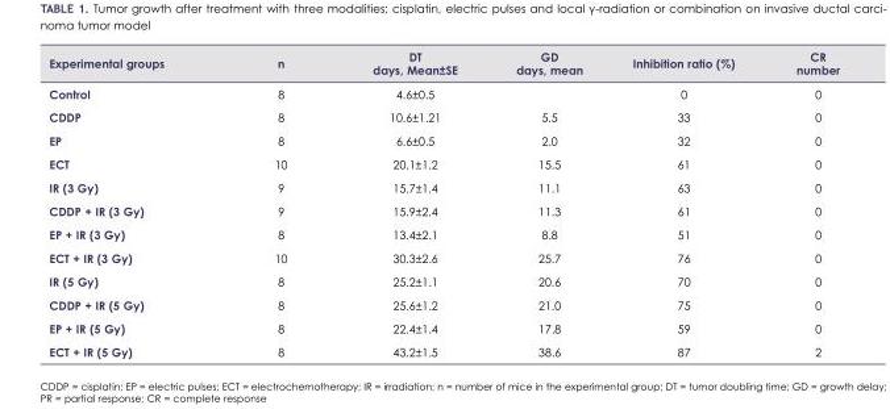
<table><thead><tr><td>Experimental groups</td><td>n</td><td>DT days, Mean±SE</td><td>GD days, mean</td><td>Inhibition ratio (%)</td><td>CR number</td></tr></thead><tbody><tr><td>Control</td><td>8</td><td>4.6±0.5</td><td></td><td>0</td><td>0</td></tr><tr><td>CDDP</td><td>8</td><td>10.6±1.21</td><td>5.5</td><td>33</td><td>0</td></tr><tr><td>EP</td><td>8</td><td>6.6±0.5</td><td>2.0</td><td>32</td><td>0</td></tr><tr><td>ECT</td><td>10</td><td>20.1±1.2</td><td>15.5</td><td>61</td><td>0</td></tr><tr><td>IR (3 Gy)</td><td>9</td><td>15.7±1.4</td><td>11.1</td><td>63</td><td>0</td></tr><tr><td>CDDP + IR (3 Gy)</td><td>9</td><td>15.9±2.4</td><td>11.3</td><td>61</td><td>0</td></tr><tr><td>EP + IR (3 Gy)</td><td>8</td><td>13.4±2.1</td><td>8.8</td><td>51</td><td>0</td></tr><tr><td>ECT + IR (3 Gy)</td><td>10</td><td>30.3±2.6</td><td>25.7</td><td>76</td><td>0</td></tr><tr><td>IR (5 Gy)</td><td>8</td><td>25.2±1.1</td><td>20.6</td><td>70</td><td>0</td></tr><tr><td>CDDP + IR (5 Gy)</td><td>8</td><td>25.6±1.2</td><td>21.0</td><td>75</td><td>0</td></tr><tr><td>EP + IR (5 Gy)</td><td>8</td><td>22.4±1.4</td><td>17.8</td><td>59</td><td>0</td></tr><tr><td>ECT + IR (5 Gy)</td><td>8</td><td>43.2±1.5</td><td>38.6</td><td>87</td><td>2</td></tr></tbody></table>